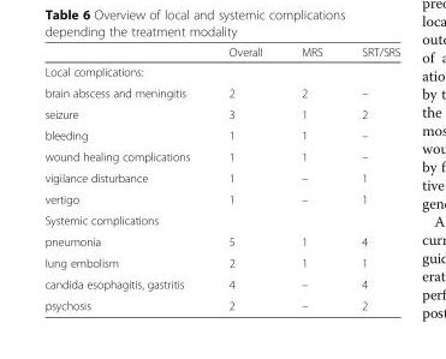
<table><thead><tr><td></td><td>Overall</td><td>MRS</td><td>SRT/SRS</td></tr></thead><tbody><tr><td colspan="4">Local complications:</td></tr><tr><td>brain abscess and meningitis</td><td>2</td><td>2</td><td>–</td></tr><tr><td>seizure</td><td>3</td><td>1</td><td>2</td></tr><tr><td>bleeding</td><td>1</td><td>1</td><td>–</td></tr><tr><td>wound healing complications</td><td>1</td><td>1</td><td>–</td></tr><tr><td>vigilance disturbance</td><td>1</td><td>–</td><td>1</td></tr><tr><td>vertigo</td><td>1</td><td>–</td><td>1</td></tr><tr><td colspan="4">Systemic complications</td></tr><tr><td>pneumonia</td><td>5</td><td>1</td><td>4</td></tr><tr><td>lung embolism</td><td>2</td><td>1</td><td>1</td></tr><tr><td>candida esophagitis, gastritis</td><td>4</td><td>–</td><td>4</td></tr><tr><td>psychosis</td><td>2</td><td>–</td><td>2</td></tr></tbody></table>